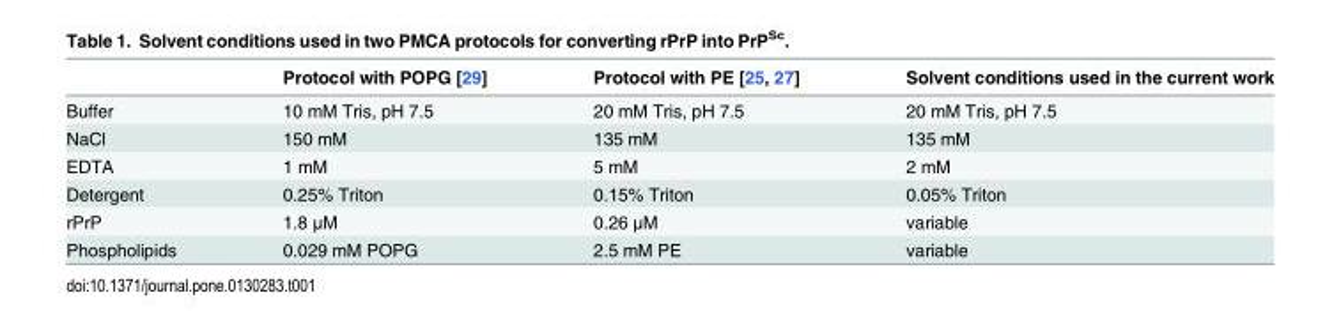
<table><thead><tr><td></td><td>Protocol with POPG [29]</td><td>Protocol with PE [25, 27]</td><td>Solvent conditions used in the current work</td></tr></thead><tbody><tr><td>Buffer</td><td>10 mM Tris, pH 7.5</td><td>20 mM Tris, pH 7.5</td><td>20 mM Tris, pH 7.5</td></tr><tr><td>NaCl</td><td>150 mM</td><td>135 mM</td><td>135 mM</td></tr><tr><td>EDTA</td><td>1 mM</td><td>5 mM</td><td>2 mM</td></tr><tr><td>Detergent</td><td>0.25% Triton</td><td>0.15% Triton</td><td>0.05% Triton</td></tr><tr><td>rPrP</td><td>1.8 μM</td><td>0.26 μM</td><td>variable</td></tr><tr><td>Phospholipids</td><td>0.029 mM POPG</td><td>2.5 mM PE</td><td>variable</td></tr></tbody></table>